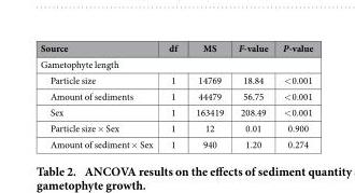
<table><thead><tr><td>Source</td><td>df</td><td>MS</td><td>F-value</td><td>P-value</td></tr></thead><tbody><tr><td colspan="5">Gametophyte length</td></tr><tr><td>Particle size</td><td>1</td><td>14769</td><td>18.84</td><td>&lt; 0.001</td></tr><tr><td>Amount of sediments</td><td>1</td><td>44479</td><td>56.75</td><td>&lt; 0.001</td></tr><tr><td>Sex</td><td>1</td><td>163419</td><td>208.49</td><td>&lt; 0.001</td></tr><tr><td>Particle size × Sex</td><td>1</td><td>12</td><td>0.01</td><td>0.900</td></tr><tr><td>Amount of sediment × Sex</td><td>1</td><td>940</td><td>1.20</td><td>0.274</td></tr></tbody></table>